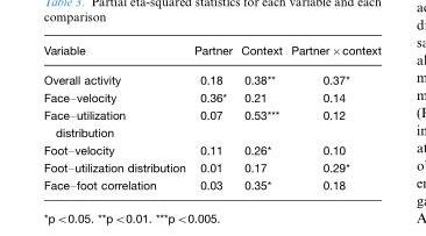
<table><thead><tr><td>Variable</td><td>Partner</td><td>Context</td><td>Partner×context</td></tr></thead><tbody><tr><td>Overall activity</td><td>0.18</td><td>0.38**</td><td>0.37*</td></tr><tr><td>Face–velocity</td><td>0.36*</td><td>0.21</td><td>0.14</td></tr><tr><td>Face–utilization distribution</td><td>0.07</td><td>0.53***</td><td>0.12</td></tr><tr><td>Foot–velocity</td><td>0.11</td><td>0.26*</td><td>0.10</td></tr><tr><td>Foot–utilization distribution</td><td>0.01</td><td>0.17</td><td>0.29*</td></tr><tr><td>Face–foot correlation</td><td>0.03</td><td>0.35*</td><td>0.18</td></tr></tbody></table>